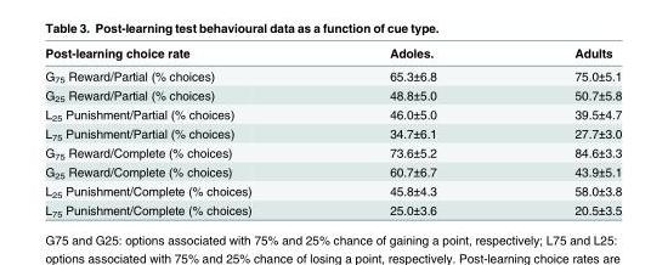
<table><thead><tr><td>Post-learning choice rate</td><td>Adoles.</td><td>Adults</td></tr></thead><tbody><tr><td>G<sub>75</sub> Reward/Partial (% choices)</td><td>65.3±6.8</td><td>75.0±5.1</td></tr><tr><td>G<sub>25</sub> Reward/Partial (% choices)</td><td>48.8±5.0</td><td>50.7±5.8</td></tr><tr><td>L<sub>25</sub> Punishment/Partial (% choices)</td><td>46.0±5.0</td><td>39.5±4.7</td></tr><tr><td>L<sub>75</sub> Punishment/Partial (% choices)</td><td>34.7±6.1</td><td>27.7±3.0</td></tr><tr><td>G<sub>75</sub> Reward/Complete (% choices)</td><td>73.6±5.2</td><td>84.6±3.3</td></tr><tr><td>G<sub>25</sub> Reward/Complete (% choices)</td><td>60.7±6.7</td><td>43.9±5.1</td></tr><tr><td>L<sub>25</sub> Punishment/Complete (% choices)</td><td>45.8±4.3</td><td>58.0±3.8</td></tr><tr><td>L<sub>75</sub> Punishment/Complete (% choices)</td><td>25.0±3.6</td><td>20.5±3.5</td></tr></tbody></table>